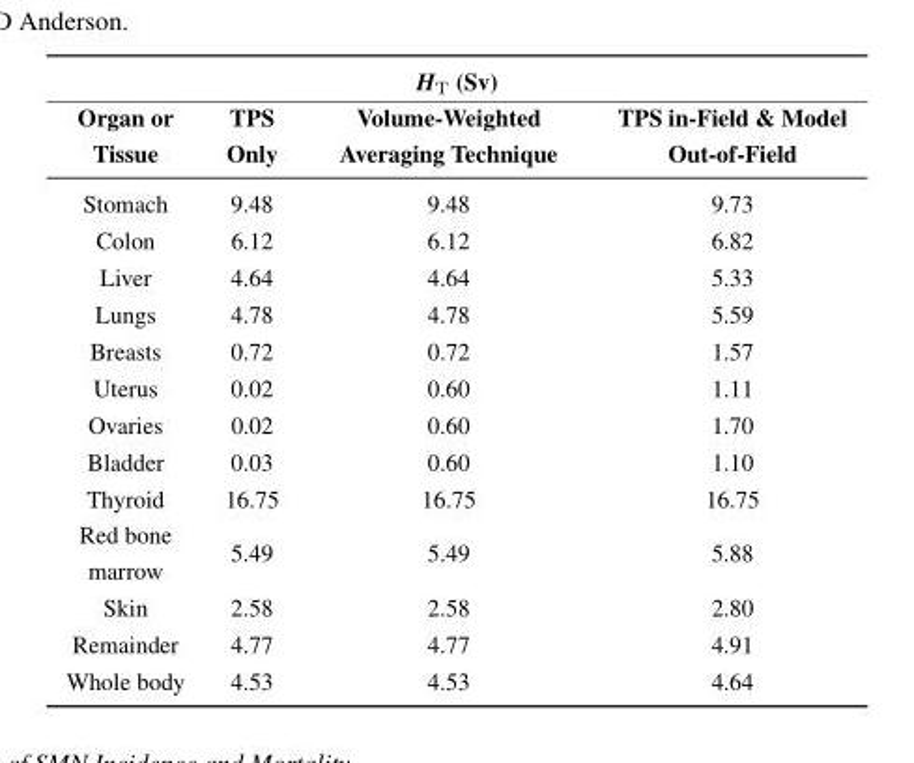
<table><thead><tr><td colspan="4">H<sub>T</sub> (Sv)</td></tr><tr><td>Organ or Tissue</td><td>TPS Only</td><td>Volume-Weighted Averaging Technique</td><td>TPS in-Field &amp; Model Out-of-Field</td></tr></thead><tbody><tr><td>Stomach</td><td>9.48</td><td>9.48</td><td>9.73</td></tr><tr><td>Colon</td><td>6.12</td><td>6.12</td><td>6.82</td></tr><tr><td>Liver</td><td>4.64</td><td>4.64</td><td>5.33</td></tr><tr><td>Lungs</td><td>4.78</td><td>4.78</td><td>5.59</td></tr><tr><td>Breasts</td><td>0.72</td><td>0.72</td><td>1.57</td></tr><tr><td>Uterus</td><td>0.02</td><td>0.60</td><td>1.11</td></tr><tr><td>Ovaries</td><td>0.02</td><td>0.60</td><td>1.70</td></tr><tr><td>Bladder</td><td>0.03</td><td>0.60</td><td>1.10</td></tr><tr><td>Thyroid</td><td>16.75</td><td>16.75</td><td>16.75</td></tr><tr><td>Red bone marrow</td><td>5.49</td><td>5.49</td><td>5.88</td></tr><tr><td>Skin</td><td>2.58</td><td>2.58</td><td>2.80</td></tr><tr><td>Remainder</td><td>4.77</td><td>4.77</td><td>4.91</td></tr><tr><td>Whole body</td><td>4.53</td><td>4.53</td><td>4.64</td></tr></tbody></table>